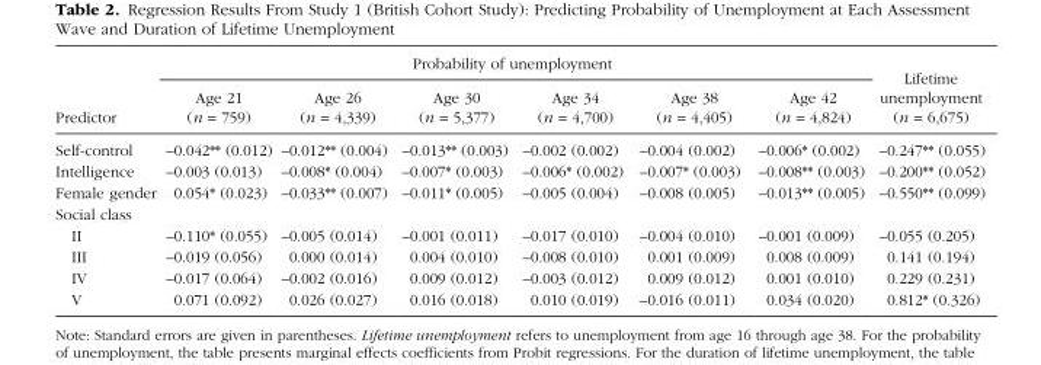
<table><thead><tr><td rowspan="2">Predictor</td><td colspan="6">Probability of unemployment</td><td rowspan="2">Lifetime unemployment (n = 6,675)</td></tr><tr><td>Age 21 (n = 759)</td><td>Age 26 (n = 4,339)</td><td>Age 30 (n = 5,377)</td><td>Age 34 (n = 4,700)</td><td>Age 38 (n = 4,405)</td><td>Age 42 (n = 4,824)</td></tr></thead><tbody><tr><td>Self-control</td><td>–0.042** (0.012)</td><td>–0.012** (0.004)</td><td>–0.013** (0.003)</td><td>–0.002 (0.002)</td><td>–0.004 (0.002)</td><td>–0.006* (0.002)</td><td>–0.247** (0.055)</td></tr><tr><td>Intelligence</td><td>–0.003 (0.013)</td><td>–0.008* (0.004)</td><td>–0.007* (0.003)</td><td>–0.006* (0.002)</td><td>–0.007* (0.003)</td><td>–0.008** (0.003)</td><td>–0.200** (0.052)</td></tr><tr><td>Female gender</td><td>0.054* (0.023)</td><td>–0.033** (0.007)</td><td>–0.011* (0.005)</td><td>–0.005 (0.004)</td><td>–0.008 (0.005)</td><td>–0.013** (0.005)</td><td>–0.550** (0.099)</td></tr><tr><td colspan="8">Social class</td></tr><tr><td>II</td><td>–0.110* (0.055)</td><td>–0.005 (0.014)</td><td>–0.001 (0.011)</td><td>–0.017 (0.010)</td><td>–0.004 (0.010)</td><td>–0.001 (0.009)</td><td>–0.055 (0.205)</td></tr><tr><td>III</td><td>–0.019 (0.056)</td><td>0.000 (0.014)</td><td>0.004 (0.010)</td><td>–0.008 (0.010)</td><td>0.001 (0.009)</td><td>0.008 (0.009)</td><td>0.141 (0.194)</td></tr><tr><td>IV</td><td>–0.017 (0.064)</td><td>–0.002 (0.016)</td><td>0.009 (0.012)</td><td>–0.003 (0.012)</td><td>0.009 (0.012)</td><td>0.001 (0.010)</td><td>0.229 (0.231)</td></tr><tr><td>V</td><td>0.071 (0.092)</td><td>0.026 (0.027)</td><td>0.016 (0.018)</td><td>0.010 (0.019)</td><td>–0.016 (0.011)</td><td>0.034 (0.020)</td><td>0.812* (0.326)</td></tr></tbody></table>